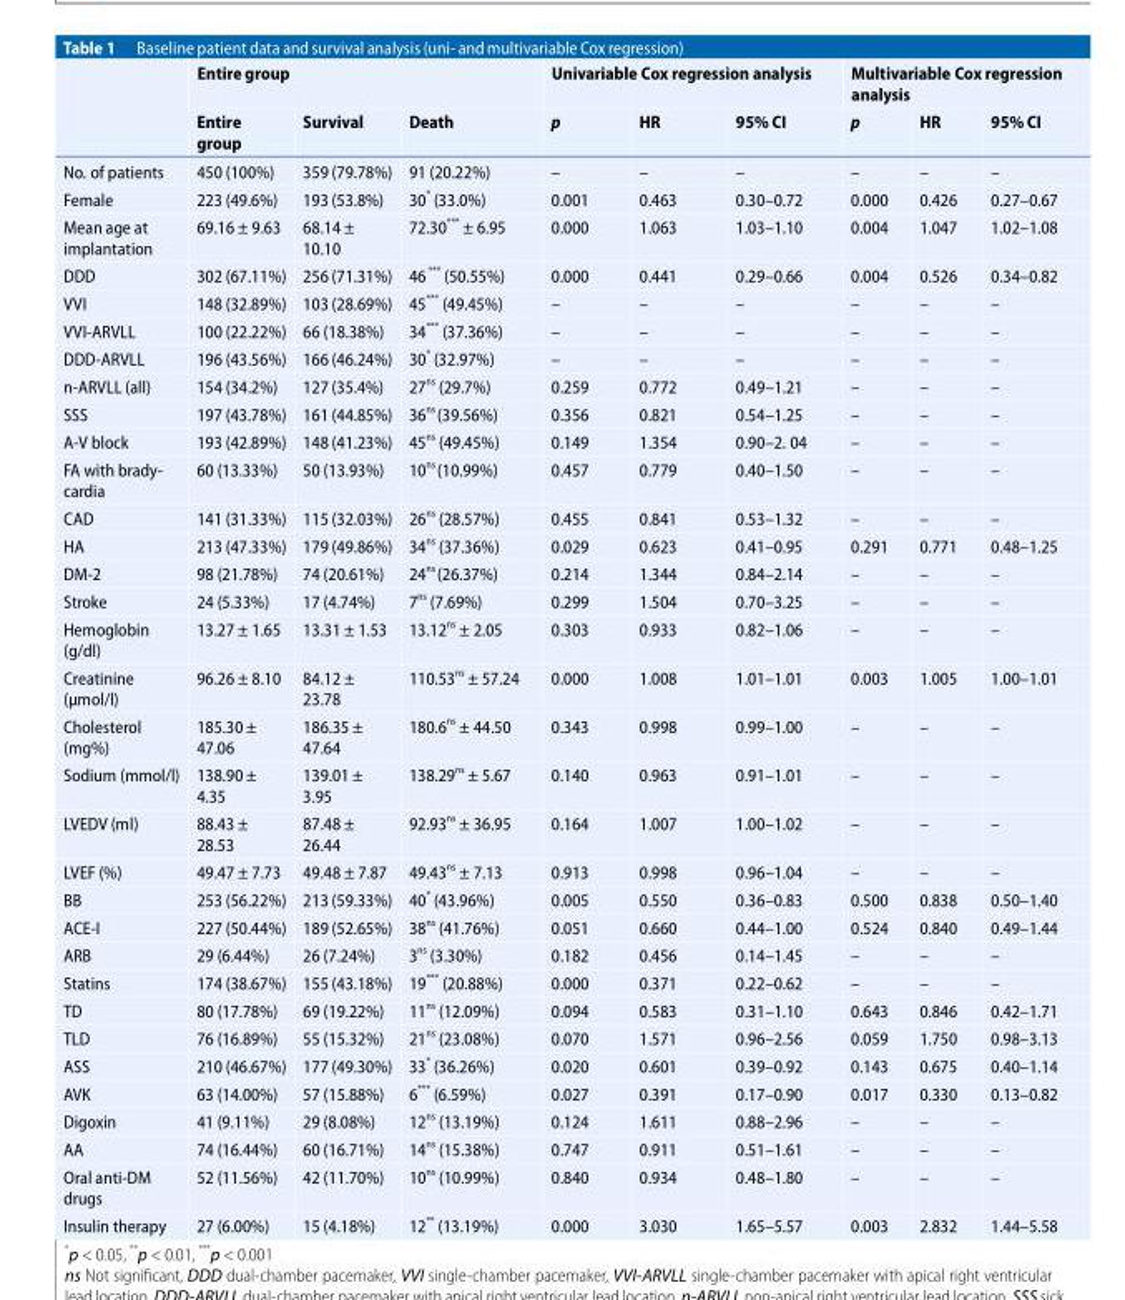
<table><thead><tr><td rowspan="2"></td><td colspan="3">Entire group</td><td colspan="3">Univariable Cox regression analysis</td><td colspan="3">Multivariable Cox regression analysis</td></tr><tr><td>Entire group</td><td>Survival</td><td>Death</td><td>p</td><td>HR</td><td>95% CI</td><td>p</td><td>HR</td><td>95% CI</td></tr></thead><tbody><tr><td>No. of patients</td><td>450 (100%)</td><td>359 (79.78%)</td><td>91 (20.22%)</td><td>–</td><td>–</td><td>–</td><td>–</td><td>–</td><td>–</td></tr><tr><td>Female</td><td>223 (49.6%)</td><td>193 (53.8%)</td><td>30 * (33.0%)</td><td>0.001</td><td>0.463</td><td>0.30–0.72</td><td>0.000</td><td>0.426</td><td>0.27–0.67</td></tr><tr><td>Mean age at implantation</td><td>69.16 ± 9.63</td><td>68.14 ± 10.10</td><td>72.30 *** ± 6.95</td><td>0.000</td><td>1.063</td><td>1.03–1.10</td><td>0.004</td><td>1.047</td><td>1.02–1.08</td></tr><tr><td>DDD</td><td>302 (67.11%)</td><td>256 (71.31%)</td><td>46 *** (50.55%)</td><td>0.000</td><td>0.441</td><td>0.29–0.66</td><td>0.004</td><td>0.526</td><td>0.34–0.82</td></tr><tr><td>VVI</td><td>148 (32.89%)</td><td>103 (28.69%)</td><td>45*** (49.45%)</td><td>–</td><td>–</td><td>–</td><td>–</td><td>–</td><td>–</td></tr><tr><td>VVI-ARVLL</td><td>100 (22.22%)</td><td>66 (18.38%)</td><td>34*** (37.36%)</td><td>–</td><td>–</td><td>–</td><td>–</td><td>–</td><td>–</td></tr><tr><td>DDD-ARVLL</td><td>196 (43.56%)</td><td>166 (46.24%)</td><td>30* (32.97%)</td><td>–</td><td>–</td><td>–</td><td>–</td><td>–</td><td>–</td></tr><tr><td>n-ARVLL (all)</td><td>154 (34.2%)</td><td>127 (35.4%)</td><td>27<sup>ns</sup> (29.7%)</td><td>0.259</td><td>0.772</td><td>0.49–1.21</td><td>–</td><td>–</td><td>–</td></tr><tr><td>SSS</td><td>197 (43.78%)</td><td>161 (44.85%)</td><td>36<sup>ns</sup>(39.56%)</td><td>0.356</td><td>0.821</td><td>0.54–1.25</td><td>–</td><td>–</td><td>–</td></tr><tr><td>A-V block</td><td>193 (42.89%)</td><td>148 (41.23%)</td><td>45<sup>ns</sup> (49.45%)</td><td>0.149</td><td>1.354</td><td>0.90–2. 04</td><td>–</td><td>–</td><td>–</td></tr><tr><td>FA with brady- cardia</td><td>60 (13.33%)</td><td>50 (13.93%)</td><td>10<sup>ns</sup>(10.99%)</td><td>0.457</td><td>0.779</td><td>0.40–1.50</td><td>–</td><td>–</td><td>–</td></tr><tr><td>CAD</td><td>141 (31.33%)</td><td>115 (32.03%)</td><td>26<sup>ns</sup> (28.57%)</td><td>0.455</td><td>0.841</td><td>0.53–1.32</td><td>–</td><td>–</td><td>–</td></tr><tr><td>HA</td><td>213 (47.33%)</td><td>179 (49.86%)</td><td>34<sup>ns</sup> (37.36%)</td><td>0.029</td><td>0.623</td><td>0.41–0.95</td><td>0.291</td><td>0.771</td><td>0.48–1.25</td></tr><tr><td>DM-2</td><td>98 (21.78%)</td><td>74 (20.61%)</td><td>24<sup>ns</sup>(26.37%)</td><td>0.214</td><td>1.344</td><td>0.84–2.14</td><td>–</td><td>–</td><td>–</td></tr><tr><td>Stroke</td><td>24 (5.33%)</td><td>17 (4.74%)</td><td>7<sup>ns</sup> (7.69%)</td><td>0.299</td><td>1.504</td><td>0.70–3.25</td><td>–</td><td>–</td><td>–</td></tr><tr><td>Hemoglobin (g/dl)</td><td>13.27 ± 1.65</td><td>13.31 ± 1.53</td><td>13.12<sup>ns</sup> ± 2.05</td><td>0.303</td><td>0.933</td><td>0.82–1.06</td><td>–</td><td>–</td><td>–</td></tr><tr><td>Creatinine (μmol/l)</td><td>96.26 ± 8.10</td><td>84.12 ± 23.78</td><td>110.53<sup>ns</sup> ± 57.24</td><td>0.000</td><td>1.008</td><td>1.01–1.01</td><td>0.003</td><td>1.005</td><td>1.00–1.01</td></tr><tr><td>Cholesterol (mg%)</td><td>185.30 ± 47.06</td><td>186.35 ± 47.64</td><td>180.6<sup>ns</sup> ± 44.50</td><td>0.343</td><td>0.998</td><td>0.99–1.00</td><td>–</td><td>–</td><td>–</td></tr><tr><td>Sodium (mmol/l)</td><td>138.90 ± 4.35</td><td>139.01 ± 3.95</td><td>138.29<sup>ns</sup> ± 5.67</td><td>0.140</td><td>0.963</td><td>0.91–1.01</td><td>–</td><td>–</td><td>–</td></tr><tr><td>LVEDV (ml)</td><td>88.43 ± 28.53</td><td>87.48 ± 26.44</td><td>92.93<sup>ns</sup> ± 36.95</td><td>0.164</td><td>1.007</td><td>1.00–1.02</td><td>–</td><td>–</td><td>–</td></tr><tr><td>LVEF (%)</td><td>49.47 ± 7.73</td><td>49.48 ± 7.87</td><td>49.43<sup>ns</sup> ± 7.13</td><td>0.913</td><td>0.998</td><td>0.96–1.04</td><td>–</td><td>–</td><td>–</td></tr><tr><td>BB</td><td>253 (56.22%)</td><td>213 (59.33%)</td><td>40* (43.96%)</td><td>0.005</td><td>0.550</td><td>0.36–0.83</td><td>0.500</td><td>0.838</td><td>0.50–1.40</td></tr><tr><td>ACE-I</td><td>227 (50.44%)</td><td>189 (52.65%)</td><td>38<sup>ns</sup> (41.76%)</td><td>0.051</td><td>0.660</td><td>0.44–1.00</td><td>0.524</td><td>0.840</td><td>0.49–1.44</td></tr><tr><td>ARB</td><td>29 (6.44%)</td><td>26 (7.24%)</td><td>3<sup>ns</sup> (3.30%)</td><td>0.182</td><td>0.456</td><td>0.14–1.45</td><td>–</td><td>–</td><td>–</td></tr><tr><td>Statins</td><td>174 (38.67%)</td><td>155 (43.18%)</td><td>19*** (20.88%)</td><td>0.000</td><td>0.371</td><td>0.22–0.62</td><td>–</td><td>–</td><td>–</td></tr><tr><td>TD</td><td>80 (17.78%)</td><td>69 (19.22%)</td><td>11<sup>ns</sup> (12.09%)</td><td>0.094</td><td>0.583</td><td>0.31–1.10</td><td>0.643</td><td>0.846</td><td>0.42–1.71</td></tr><tr><td>TLD</td><td>76 (16.89%)</td><td>55 (15.32%)</td><td>21<sup>ns</sup> (23.08%)</td><td>0.070</td><td>1.571</td><td>0.96–2.56</td><td>0.059</td><td>1.750</td><td>0.98–3.13</td></tr><tr><td>ASS</td><td>210 (46.67%)</td><td>177 (49.30%)</td><td>33* (36.26%)</td><td>0.020</td><td>0.601</td><td>0.39–0.92</td><td>0.143</td><td>0.675</td><td>0.40–1.14</td></tr><tr><td>AVK</td><td>63 (14.00%)</td><td>57 (15.88%)</td><td>6*** (6.59%)</td><td>0.027</td><td>0.391</td><td>0.17–0.90</td><td>0.017</td><td>0.330</td><td>0.13–0.82</td></tr><tr><td>Digoxin</td><td>41 (9.11%)</td><td>29 (8.08%)</td><td>12<sup>ns</sup> (13.19%)</td><td>0.124</td><td>1.611</td><td>0.88–2.96</td><td>–</td><td>–</td><td>–</td></tr><tr><td>AA</td><td>74 (16.44%)</td><td>60 (16.71%)</td><td>14<sup>ns</sup> (15.38%)</td><td>0.747</td><td>0.911</td><td>0.51–1.61</td><td>–</td><td>–</td><td>–</td></tr><tr><td>Oral anti-DM drugs</td><td>52 (11.56%)</td><td>42 (11.70%)</td><td>10<sup>ns</sup> (10.99%)</td><td>0.840</td><td>0.934</td><td>0.48–1.80</td><td>–</td><td>–</td><td>–</td></tr><tr><td>Insulin therapy</td><td>27 (6.00%)</td><td>15 (4.18%)</td><td>12** (13.19%)</td><td>0.000</td><td>3.030</td><td>1.65–5.57</td><td>0.003</td><td>2.832</td><td>1.44–5.58</td></tr></tbody></table>